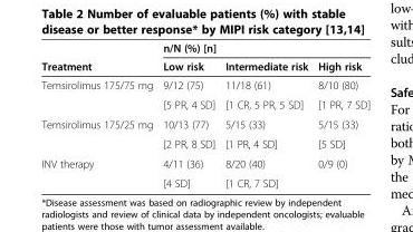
<table><thead><tr><td rowspan="2">Treatment</td><td colspan="3">n/N (%) [n]</td></tr><tr><td>Low risk</td><td>Intermediate risk</td><td>High risk</td></tr></thead><tbody><tr><td rowspan="2">Temsirolimus 175/75 mg</td><td>9/12 (75)</td><td>11/18 (61)</td><td>8/10 (80)</td></tr><tr><td>[5 PR, 4 SD]</td><td>[1 CR, 5 PR, 5 SD]</td><td>[1 PR, 7 SD]</td></tr><tr><td rowspan="2">Temsirolimus 175/25 mg</td><td>10/13 (77)</td><td>5/15 (33)</td><td>5/15 (33)</td></tr><tr><td>[2 PR, 8 SD]</td><td>[1 PR, 4 SD]</td><td>[5 SD]</td></tr><tr><td rowspan="2">INV therapy</td><td>4/11 (36)</td><td>8/20 (40)</td><td>0/9 (0)</td></tr><tr><td>[4 SD]</td><td>[1 CR, 7 SD]</td><td></td></tr></tbody></table>